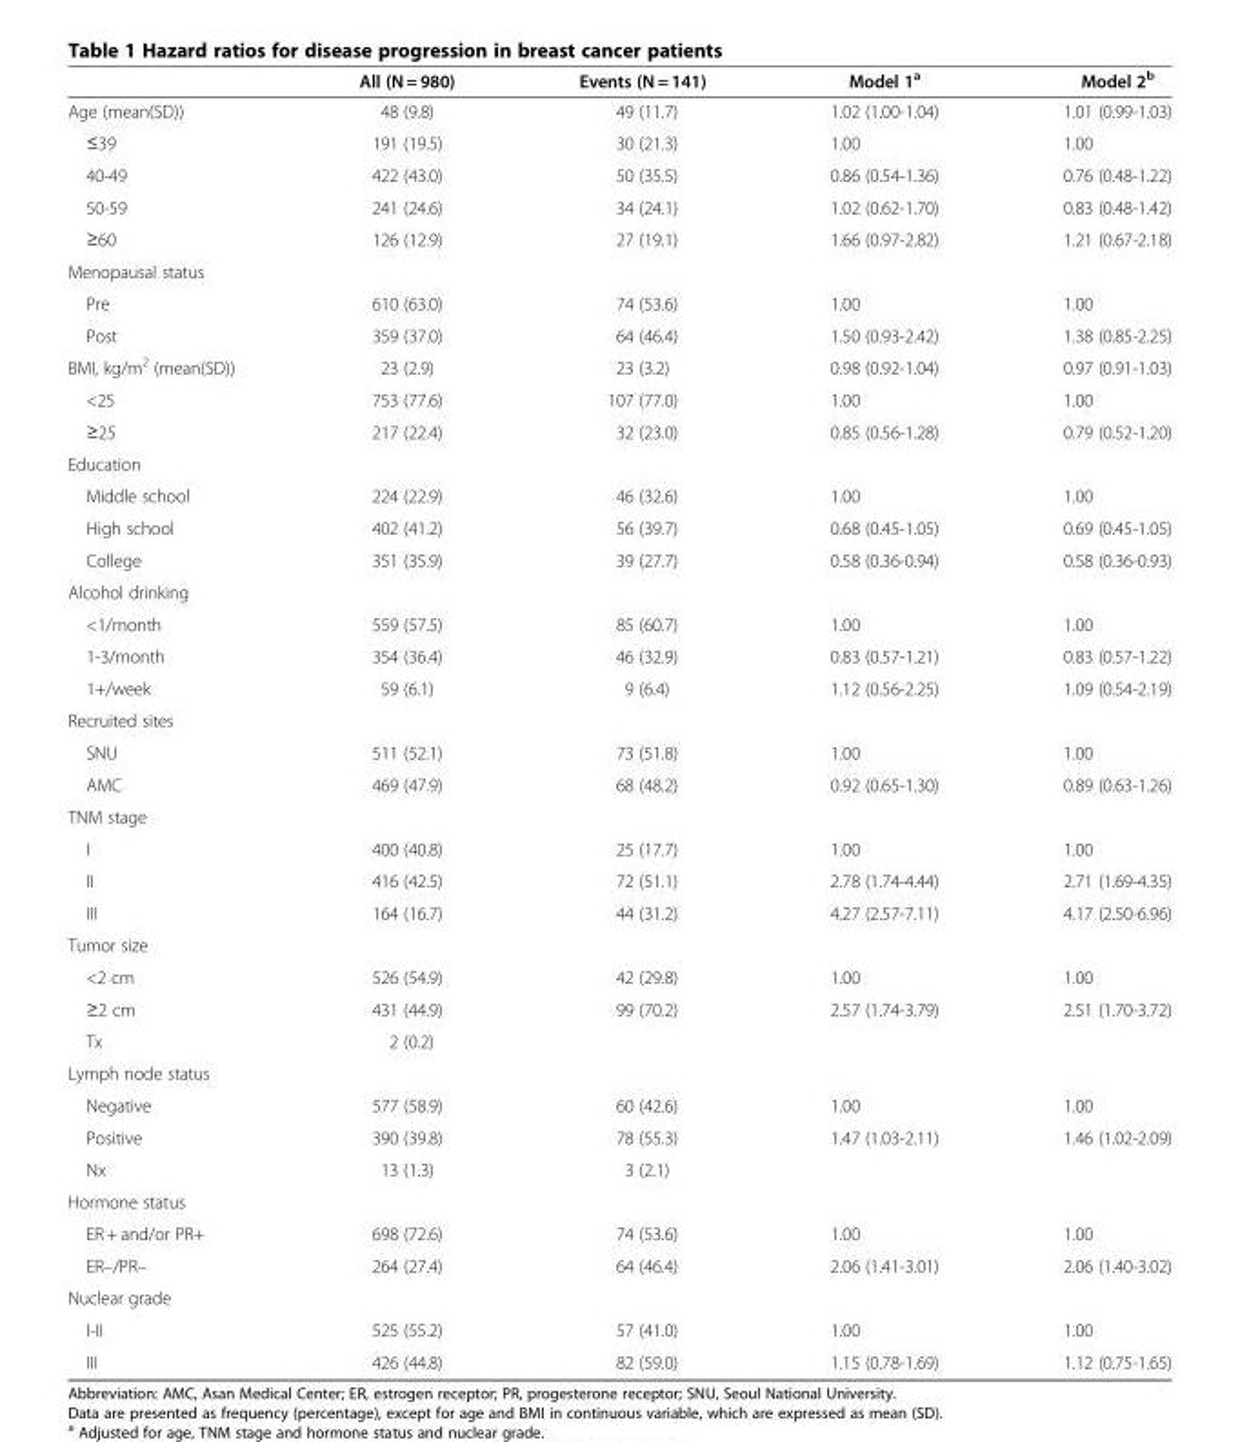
<table><thead><tr><td></td><td>All (N = 980)</td><td>Events (N = 141)</td><td>Model 1<sup>a</sup></td><td>Model 2<sup>b</sup></td></tr></thead><tbody><tr><td>Age (mean(SD))</td><td>48 (9.8)</td><td>49 (11.7)</td><td>1.02 (1.00-1.04)</td><td>1.01 (0.99-1.03)</td></tr><tr><td>≤39</td><td>191 (19.5)</td><td>30 (21.3)</td><td>1.00</td><td>1.00</td></tr><tr><td>40-49</td><td>422 (43.0)</td><td>50 (35.5)</td><td>0.86 (0.54-1.36)</td><td>0.76 (0.48-1.22)</td></tr><tr><td>50-59</td><td>241 (24.6)</td><td>34 (24.1)</td><td>1.02 (0.62-1.70)</td><td>0.83 (0.48-1.42)</td></tr><tr><td>≥60</td><td>126 (12.9)</td><td>27 (19.1)</td><td>1.66 (0.97-2.82)</td><td>1.21 (0.67-2.18)</td></tr><tr><td colspan="5">Menopausal status</td></tr><tr><td>Pre</td><td>610 (63.0)</td><td>74 (53.6)</td><td>1.00</td><td>1.00</td></tr><tr><td>Post</td><td>359 (37.0)</td><td>64 (46.4)</td><td>1.50 (0.93-2.42)</td><td>1.38 (0.85-2.25)</td></tr><tr><td>BMI, kg/m<sup>2</sup> (mean(SD))</td><td>23 (2.9)</td><td>23 (3.2)</td><td>0.98 (0.92-1.04)</td><td>0.97 (0.91-1.03)</td></tr><tr><td>&lt;25</td><td>753 (77.6)</td><td>107 (77.0)</td><td>1.00</td><td>1.00</td></tr><tr><td>≥25</td><td>217 (22.4)</td><td>32 (23.0)</td><td>0.85 (0.56-1.28)</td><td>0.79 (0.52-1.20)</td></tr><tr><td colspan="5">Education</td></tr><tr><td>Middle school</td><td>224 (22.9)</td><td>46 (32.6)</td><td>1.00</td><td>1.00</td></tr><tr><td>High school</td><td>402 (41.2)</td><td>56 (39.7)</td><td>0.68 (0.45-1.05)</td><td>0.69 (0.45-1.05)</td></tr><tr><td>College</td><td>351 (35.9)</td><td>39 (27.7)</td><td>0.58 (0.36-0.94)</td><td>0.58 (0.36-0.93)</td></tr><tr><td colspan="5">Alcohol drinking</td></tr><tr><td>&lt;1/month</td><td>559 (57.5)</td><td>85 (60.7)</td><td>1.00</td><td>1.00</td></tr><tr><td>1-3/month</td><td>354 (36.4)</td><td>46 (32.9)</td><td>0.83 (0.57-1.21)</td><td>0.83 (0.57-1.22)</td></tr><tr><td>1+/week</td><td>59 (6.1)</td><td>9 (6.4)</td><td>1.12 (0.56-2.25)</td><td>1.09 (0.54-2.19)</td></tr><tr><td colspan="5">Recruited sites</td></tr><tr><td>SNU</td><td>511 (52.1)</td><td>73 (51.8)</td><td>1.00</td><td>1.00</td></tr><tr><td>AMC</td><td>469 (47.9)</td><td>68 (48.2)</td><td>0.92 (0.65-1.30)</td><td>0.89 (0.63-1.26)</td></tr><tr><td colspan="5">TNM stage</td></tr><tr><td>I</td><td>400 (40.8)</td><td>25 (17.7)</td><td>1.00</td><td>1.00</td></tr><tr><td>II</td><td>416 (42.5)</td><td>72 (51.1)</td><td>2.78 (1.74-4.44)</td><td>2.71 (1.69-4.35)</td></tr><tr><td>III</td><td>164 (16.7)</td><td>44 (31.2)</td><td>4.27 (2.57-7.11)</td><td>4.17 (2.50-6.96)</td></tr><tr><td colspan="5">Tumor size</td></tr><tr><td>&lt;2 cm</td><td>526 (54.9)</td><td>42 (29.8)</td><td>1.00</td><td>1.00</td></tr><tr><td>≥2 cm</td><td>431 (44.9)</td><td>99 (70.2)</td><td>2.57 (1.74-3.79)</td><td>2.51 (1.70-3.72)</td></tr><tr><td>Tx</td><td>2 (0.2)</td><td></td><td></td><td></td></tr><tr><td colspan="5">Lymph node status</td></tr><tr><td>Negative</td><td>577 (58.9)</td><td>60 (42.6)</td><td>1.00</td><td>1.00</td></tr><tr><td>Positive</td><td>390 (39.8)</td><td>78 (55.3)</td><td>1.47 (1.03-2.11)</td><td>1.46 (1.02-2.09)</td></tr><tr><td>Nx</td><td>13 (1.3)</td><td>3 (2.1)</td><td></td><td></td></tr><tr><td colspan="5">Hormone status</td></tr><tr><td>ER + and/or PR+</td><td>698 (72.6)</td><td>74 (53.6)</td><td>1.00</td><td>1.00</td></tr><tr><td>ER–/PR–</td><td>264 (27.4)</td><td>64 (46.4)</td><td>2.06 (1.41-3.01)</td><td>2.06 (1.40-3.02)</td></tr><tr><td colspan="5">Nuclear grade</td></tr><tr><td>I-II</td><td>525 (55.2)</td><td>57 (41.0)</td><td>1.00</td><td>1.00</td></tr><tr><td>III</td><td>426 (44.8)</td><td>82 (59.0)</td><td>1.15 (0.78-1.69)</td><td>1.12 (0.75-1.65)</td></tr></tbody></table>